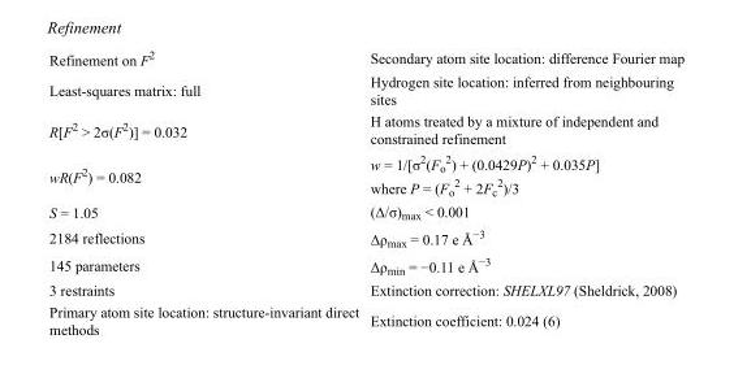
<table><tbody><tr><td>Refinement on F<sup>2</sup></td><td>Secondary atom site location: difference Fourier map</td></tr><tr><td>Least-squares matrix: full</td><td>Hydrogen site location: inferred from neighbouring sites</td></tr><tr><td>R[F<sup>2</sup> &gt; 2σ(F<sup>2</sup>)] = 0.032</td><td>H atoms treated by a mixture of independent and constrained refinement</td></tr><tr><td>wR(F<sup>2</sup>) = 0.082</td><td>w = 1/[σ<sup>2</sup>(F<sub>o</sub> <sup>2</sup>) + (0.0429P)<sup>2</sup> + 0.035P] where P = (F<sub>o</sub> <sup>2</sup> + 2F<sub>c</sub> <sup>2</sup>)/3</td></tr><tr><td>S = 1.05</td><td>(Δ/σ)<sub>max</sub> &lt; 0.001</td></tr><tr><td>2184 reflections</td><td>Δρ<sub>max</sub> = 0.17 e Å<sup>−3</sup></td></tr><tr><td>145 parameters</td><td>Δρ<sub>min</sub> = −0.11 e Å<sup>−3</sup></td></tr><tr><td>3 restraints</td><td>Extinction correction: SHELXL97 (Sheldrick, 2008)</td></tr><tr><td>Primary atom site location: structure-invariant direct methods</td><td>Extinction coefficient: 0.024 (6)</td></tr></tbody></table>